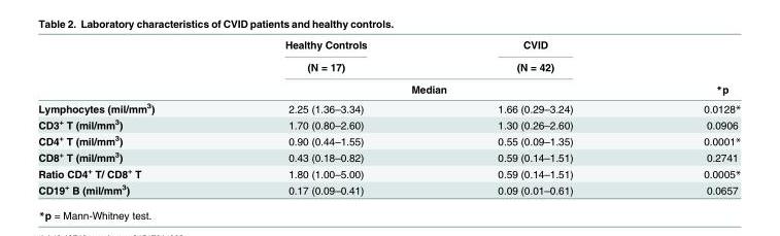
<table><thead><tr><td rowspan="3"></td><td rowspan="2">Healthy Controls (N = 17)</td><td rowspan="2">CVID (N = 42)</td><td rowspan="3">*p</td></tr><tr></tr><tr><td colspan="2">Median</td></tr></thead><tbody><tr><td>Lymphocytes (mil/mm<sup>3</sup>)</td><td>2.25 (1.36–3.34)</td><td>1.66 (0.29–3.24)</td><td>0.0128*</td></tr><tr><td>CD3<sup>+</sup> T (mil/mm<sup>3</sup>)</td><td>1.70 (0.80–2.60)</td><td>1.30 (0.26–2.60)</td><td>0.0906</td></tr><tr><td>CD4<sup>+</sup> T (mil/mm<sup>3</sup>)</td><td>0.90 (0.44–1.55)</td><td>0.55 (0.09–1.35)</td><td>0.0001*</td></tr><tr><td>CD8<sup>+</sup> T (mil/mm<sup>3</sup>)</td><td>0.43 (0.18–0.82)</td><td>0.59 (0.14–1.51)</td><td>0.2741</td></tr><tr><td>Ratio CD4<sup>+</sup> T/ CD8<sup>+</sup> T</td><td>1.80 (1.00–5.00)</td><td>0.59 (0.14–1.51)</td><td>0.0005*</td></tr><tr><td>CD19<sup>+</sup> B (mil/mm<sup>3</sup>)</td><td>0.17 (0.09–0.41)</td><td>0.09 (0.01–0.61)</td><td>0.0657</td></tr></tbody></table>